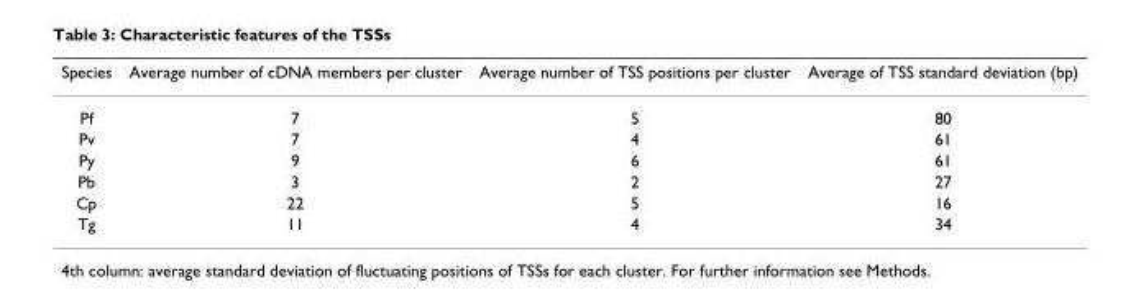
<table><thead><tr><td>Species</td><td>Average number of cDNA members per cluster</td><td>Average number of TSS positions per cluster</td><td>Average of TSS standard deviation (bp)</td></tr></thead><tbody><tr><td>Pf</td><td>7</td><td>5</td><td>80</td></tr><tr><td>Pv</td><td>7</td><td>4</td><td>61</td></tr><tr><td>Py</td><td>9</td><td>6</td><td>61</td></tr><tr><td>Pb</td><td>3</td><td>2</td><td>27</td></tr><tr><td>Cp</td><td>22</td><td>5</td><td>16</td></tr><tr><td>Tg</td><td>11</td><td>4</td><td>34</td></tr></tbody></table>